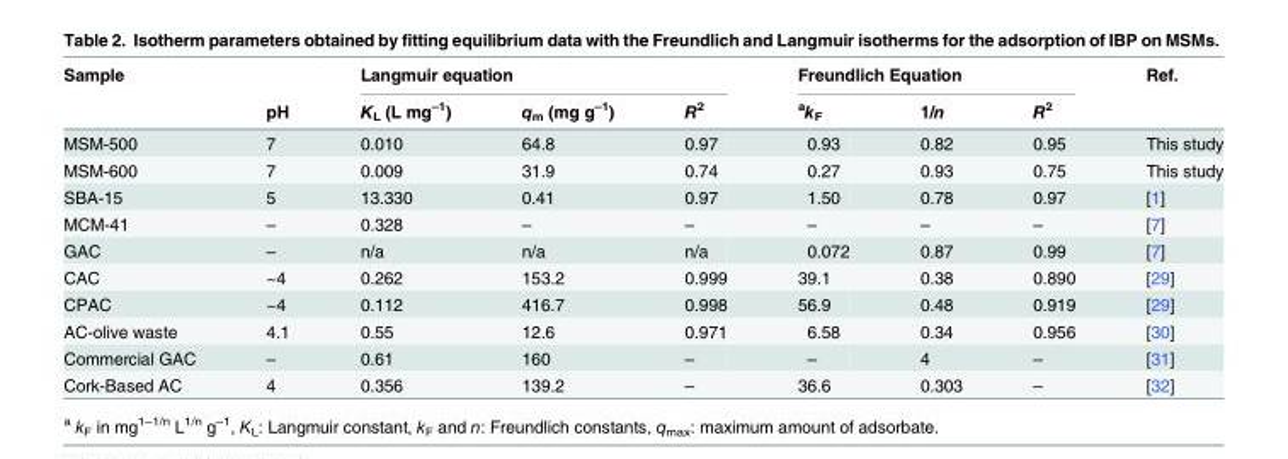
<table><thead><tr><td rowspan="2">Sample</td><td rowspan="2">pH</td><td colspan="3">Langmuir equation</td><td colspan="3">Freundlich Equation</td><td rowspan="2">Ref.</td></tr><tr><td>K<sub>L</sub> (L mg<sup>–1</sup>)</td><td>q<sub>m</sub> (mg g<sup>–1</sup>)</td><td>R<sup>2</sup></td><td><sup>a</sup>k<sub>F</sub></td><td>1/n</td><td>R<sup>2</sup></td></tr></thead><tbody><tr><td>MSM-500</td><td>7</td><td>0.010</td><td>64.8</td><td>0.97</td><td>0.93</td><td>0.82</td><td>0.95</td><td>This study</td></tr><tr><td>MSM-600</td><td>7</td><td>0.009</td><td>31.9</td><td>0.74</td><td>0.27</td><td>0.93</td><td>0.75</td><td>This study</td></tr><tr><td>SBA-15</td><td>5</td><td>13.330</td><td>0.41</td><td>0.97</td><td>1.50</td><td>0.78</td><td>0.97</td><td>[1]</td></tr><tr><td>MCM-41</td><td>–</td><td>0.328</td><td>–</td><td>–</td><td>–</td><td>–</td><td>–</td><td>[7]</td></tr><tr><td>GAC</td><td>–</td><td>n/a</td><td>n/a</td><td>n/a</td><td>0.072</td><td>0.87</td><td>0.99</td><td>[7]</td></tr><tr><td>CAC</td><td>~4</td><td>0.262</td><td>153.2</td><td>0.999</td><td>39.1</td><td>0.38</td><td>0.890</td><td>[29]</td></tr><tr><td>CPAC</td><td>~4</td><td>0.112</td><td>416.7</td><td>0.998</td><td>56.9</td><td>0.48</td><td>0.919</td><td>[29]</td></tr><tr><td>AC-olive waste</td><td>4.1</td><td>0.55</td><td>12.6</td><td>0.971</td><td>6.58</td><td>0.34</td><td>0.956</td><td>[30]</td></tr><tr><td>Commercial GAC</td><td>–</td><td>0.61</td><td>160</td><td>–</td><td>–</td><td>4</td><td>–</td><td>[31]</td></tr><tr><td>Cork-Based AC</td><td>4</td><td>0.356</td><td>139.2</td><td>–</td><td>36.6</td><td>0.303</td><td>–</td><td>[32]</td></tr></tbody></table>